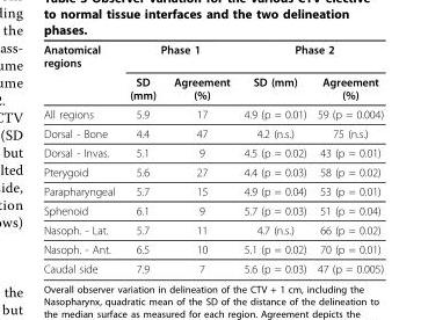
<table><thead><tr><td rowspan="2">Anatomical regions</td><td colspan="2">Phase 1</td><td colspan="2">Phase 2</td></tr><tr><td>SD (mm)</td><td>Agreement (%)</td><td>SD (mm)</td><td>Agreement (%)</td></tr></thead><tbody><tr><td>All regions</td><td>5.9</td><td>17</td><td>4.9 (p = 0.01)</td><td>59 (p = 0.004)</td></tr><tr><td>Dorsal - Bone</td><td>4.4</td><td>47</td><td>4.2 (n.s.)</td><td>75 (n.s.)</td></tr><tr><td>Dorsal - Invas.</td><td>5.1</td><td>9</td><td>4.5 (p = 0.02)</td><td>43 (p = 0.01)</td></tr><tr><td>Pterygoid</td><td>5.6</td><td>27</td><td>4.4 (p = 0.03)</td><td>58 (p = 0.02)</td></tr><tr><td>Parapharyngeal</td><td>5.7</td><td>15</td><td>4.9 (p = 0.04)</td><td>53 (p = 0.01)</td></tr><tr><td>Sphenoid</td><td>6.1</td><td>9</td><td>5.7 (p = 0.03)</td><td>51 (p = 0.04)</td></tr><tr><td>Nasoph. - Lat.</td><td>5.7</td><td>11</td><td>4.7 (n.s.)</td><td>66 (p = 0.02)</td></tr><tr><td>Nasoph. - Ant.</td><td>6.5</td><td>10</td><td>5.1 (p = 0.02)</td><td>70 (p = 0.01)</td></tr><tr><td>Caudal side</td><td>7.9</td><td>7</td><td>5.6 (p = 0.03)</td><td>47 (p = 0.005)</td></tr></tbody></table>